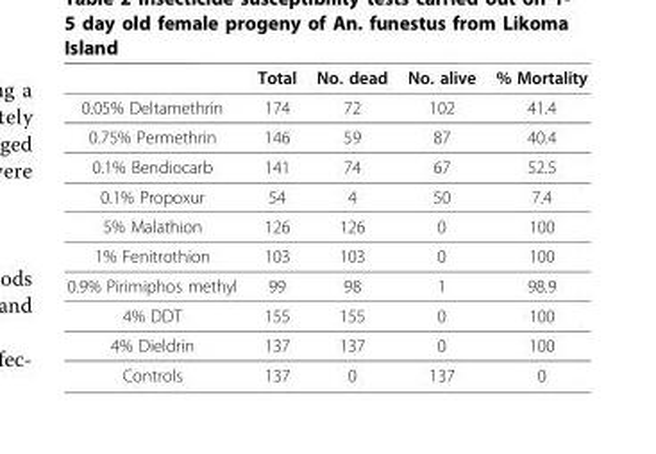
<table><thead><tr><td></td><td>Total</td><td>No. dead</td><td>No. alive</td><td>% Mortality</td></tr></thead><tbody><tr><td>0.05% Deltamethrin</td><td>174</td><td>72</td><td>102</td><td>41.4</td></tr><tr><td>0.75% Permethrin</td><td>146</td><td>59</td><td>87</td><td>40.4</td></tr><tr><td>0.1% Bendiocarb</td><td>141</td><td>74</td><td>67</td><td>52.5</td></tr><tr><td>0.1% Propoxur</td><td>54</td><td>4</td><td>50</td><td>7.4</td></tr><tr><td>5% Malathion</td><td>126</td><td>126</td><td>0</td><td>100</td></tr><tr><td>1% Fenitrothion</td><td>103</td><td>103</td><td>0</td><td>100</td></tr><tr><td>0.9% Pirimiphos methyl</td><td>99</td><td>98</td><td>1</td><td>98.9</td></tr><tr><td>4% DDT</td><td>155</td><td>155</td><td>0</td><td>100</td></tr><tr><td>4% Dieldrin</td><td>137</td><td>137</td><td>0</td><td>100</td></tr><tr><td>Controls</td><td>137</td><td>0</td><td>137</td><td>0</td></tr></tbody></table>